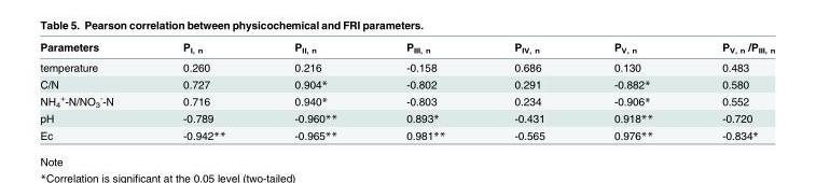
<table><thead><tr><td>Parameters</td><td>P<sub>I, n</sub></td><td>P<sub>II, n</sub></td><td>P<sub>III, n</sub></td><td>P<sub>IV, n</sub></td><td>P<sub>V, n</sub></td><td>P<sub>V, n</sub> /P<sub>III, n</sub></td></tr></thead><tbody><tr><td>temperature</td><td>0.260</td><td>0.216</td><td>-0.158</td><td>0.686</td><td>0.130</td><td>0.483</td></tr><tr><td>C/N</td><td>0.727</td><td>0.904*</td><td>-0.802</td><td>0.291</td><td>-0.882*</td><td>0.580</td></tr><tr><td>NH<sub>4</sub> <sup>+</sup>-N/NO<sub>3</sub> <sup>-</sup>-N</td><td>0.716</td><td>0.940*</td><td>-0.803</td><td>0.234</td><td>-0.906*</td><td>0.552</td></tr><tr><td>pH</td><td>-0.789</td><td>-0.960**</td><td>0.893*</td><td>-0.431</td><td>0.918**</td><td>-0.720</td></tr><tr><td>Ec</td><td>-0.942**</td><td>-0.965**</td><td>0.981**</td><td>-0.565</td><td>0.976**</td><td>-0.834*</td></tr></tbody></table>